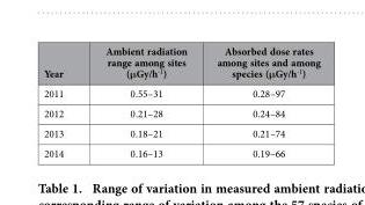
<table><thead><tr><td>Year</td><td>Ambient radiation range among sites (μGy/h<sup>-1</sup>)</td><td>Absorbed dose rates among sites and among species (μGy/h<sup>-1</sup>)</td></tr></thead><tbody><tr><td>2011</td><td>0.55–31</td><td>0.28–97</td></tr><tr><td>2012</td><td>0.21–28</td><td>0.24–84</td></tr><tr><td>2013</td><td>0.18–21</td><td>0.21–74</td></tr><tr><td>2014</td><td>0.16–13</td><td>0.19–66</td></tr></tbody></table>